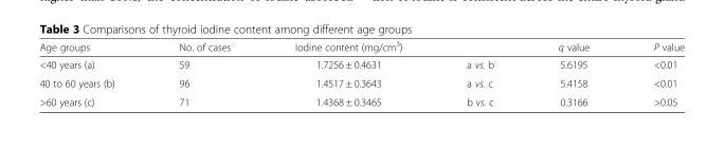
<table><thead><tr><td>Age groups</td><td>No. of cases</td><td>Iodine content (mg/cm<sup>3</sup>)</td><td></td><td>q value</td><td>P value</td></tr></thead><tbody><tr><td>&lt;40 years (a)</td><td>59</td><td>1.7256 ± 0.4631</td><td>a vs. b</td><td>5.6195</td><td>&lt;0.01</td></tr><tr><td>40 to 60 years (b)</td><td>96</td><td>1.4517 ± 0.3643</td><td>a vs. c</td><td>5.4158</td><td>&lt;0.01</td></tr><tr><td>&gt;60 years (c)</td><td>71</td><td>1.4368 ± 0.3465</td><td>b vs. c</td><td>0.3166</td><td>&gt;0.05</td></tr></tbody></table>